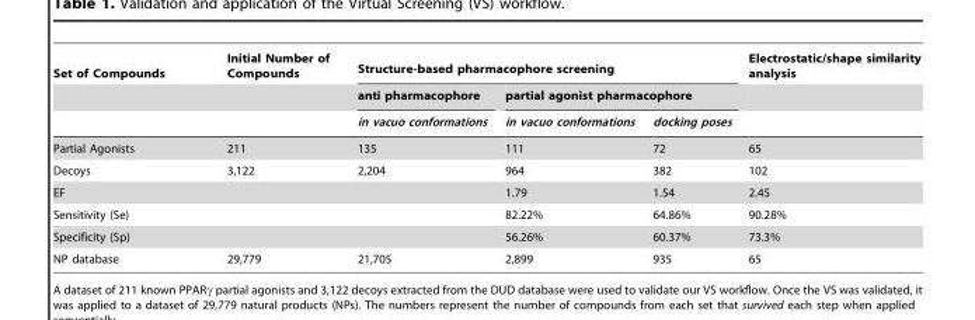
<table><thead><tr><td rowspan="3">Set of Compounds</td><td rowspan="3">Initial Number of Compounds</td><td colspan="3">Structure-based pharmacophore screening</td><td rowspan="3">Electrostatic/shape similarity analysis</td></tr><tr><td rowspan="2">anti pharmacophore in vacuo conformations</td><td colspan="2">partial agonist pharmacophore</td></tr><tr><td>in vacuo conformations</td><td>docking poses</td></tr></thead><tbody><tr><td>Partial Agonists</td><td>211</td><td>135</td><td>111</td><td>72</td><td>65</td></tr><tr><td>Decoys</td><td>3,122</td><td>2,204</td><td>964</td><td>382</td><td>102</td></tr><tr><td>EF</td><td></td><td></td><td>1.79</td><td>1.54</td><td>2.45</td></tr><tr><td>Sensitivity (Se)</td><td></td><td></td><td>82.22%</td><td>64.86%</td><td>90.28%</td></tr><tr><td>Specificity (Sp)</td><td></td><td></td><td>56.26%</td><td>60.37%</td><td>73.3%</td></tr><tr><td>NP database</td><td>29,779</td><td>21,705</td><td>2,899</td><td>935</td><td>65</td></tr></tbody></table>